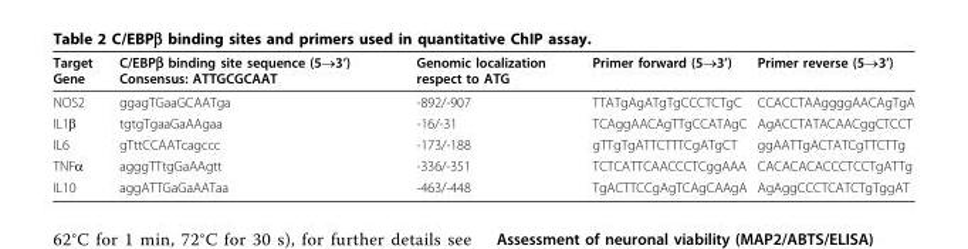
<table><thead><tr><td>Target Gene</td><td>C/EBPβ binding site sequence (5→3’) Consensus: ATTGCGCAAT</td><td>Genomic localization respect to ATG</td><td>Primer forward (5→3’)</td><td>Primer reverse (5→3’)</td></tr></thead><tbody><tr><td>NOS2</td><td>ggagTGaaGCAATga</td><td>-892/-907</td><td>TTATgAgATgTgCCCTCTgC</td><td>CCACCTAAggggAACAgTgA</td></tr><tr><td>IL1β</td><td>tgtgTgaaGaAAgaa</td><td>-16/-31</td><td>TCAggAACAgTTgCCATAgC</td><td>AgACCTATACAACggCTCCT</td></tr><tr><td>IL6</td><td>gTttCCAATcagccc</td><td>-173/-188</td><td>gTTgTgATTCTTTCgATgCT</td><td>ggAATTgACTATCgTTCTTg</td></tr><tr><td>TNFα</td><td>agggTTtgGaAAgtt</td><td>-336/-351</td><td>TCTCATTCAACCCTCggAAA</td><td>CACACACACCCTCCTgATTg</td></tr><tr><td>IL10</td><td>aggATTGaGaAATaa</td><td>-463/-448</td><td>TgACTTCCgAgTCAgCAAgA</td><td>AgAggCCCTCATCTgTggAT</td></tr></tbody></table>